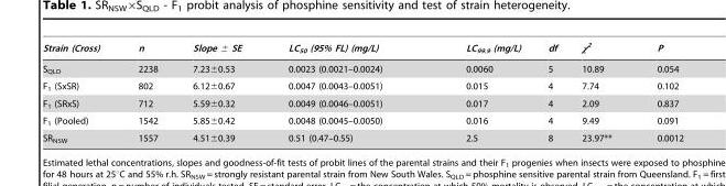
<table><thead><tr><td>Strain (Cross)</td><td>n</td><td>Slope ± SE</td><td>LC<sub>50</sub> (95% FL) (mg/L)</td><td>LC<sub>99.9</sub> (mg/L)</td><td>df</td><td>χ<sup>2</sup></td><td>P</td></tr></thead><tbody><tr><td>S<sub>QLD</sub></td><td>2238</td><td>7.23±0.53</td><td>0.0023 (0.0021–0.0024)</td><td>0.0060</td><td>5</td><td>10.89</td><td>0.054</td></tr><tr><td>F<sub>1</sub> (SxSR)</td><td>802</td><td>6.12±0.67</td><td>0.0047 (0.0043–0.0051)</td><td>0.015</td><td>4</td><td>7.74</td><td>0.102</td></tr><tr><td>F<sub>1</sub> (SRxS)</td><td>712</td><td>5.59±0.32</td><td>0.0049 (0.0046–0.0051)</td><td>0.017</td><td>4</td><td>2.09</td><td>0.837</td></tr><tr><td>F<sub>1</sub> (Pooled)</td><td>1542</td><td>5.85±0.42</td><td>0.0048 (0.0045–0.0050)</td><td>0.016</td><td>4</td><td>9.49</td><td>0.091</td></tr><tr><td>SR<sub>NSW</sub></td><td>1557</td><td>4.51±0.39</td><td>0.51 (0.47–0.55)</td><td>2.5</td><td>8</td><td>23.97**</td><td>0.0012</td></tr></tbody></table>